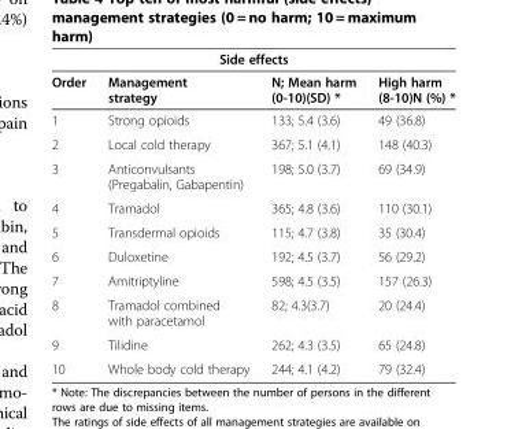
<table><thead><tr><td colspan="4">Side effects</td></tr><tr><td>Order</td><td>Management strategy</td><td>N; Mean harm (0-10)(SD) *</td><td>High harm (8-10)N (%) *</td></tr></thead><tbody><tr><td>1</td><td>Strong opioids</td><td>133; 5.4 (3.6)</td><td>49 (36.8)</td></tr><tr><td>2</td><td>Local cold therapy</td><td>367; 5.1 (4.1)</td><td>148 (40.3)</td></tr><tr><td>3</td><td>Anticonvulsants (Pregabalin, Gabapentin)</td><td>198; 5.0 (3.7)</td><td>69 (34.9)</td></tr><tr><td>4</td><td>Tramadol</td><td>365; 4.8 (3.6)</td><td>110 (30.1)</td></tr><tr><td>5</td><td>Transdermal opioids</td><td>115; 4.7 (3.8)</td><td>35 (30.4)</td></tr><tr><td>6</td><td>Duloxetine</td><td>192; 4.5 (3.7)</td><td>56 (29.2)</td></tr><tr><td>7</td><td>Amitriptyline</td><td>598; 4.5 (3.5)</td><td>157 (26.3)</td></tr><tr><td>8</td><td>Tramadol combined with paracetamol</td><td>82; 4.3(3.7)</td><td>20 (24.4)</td></tr><tr><td>9</td><td>Tilidine</td><td>262; 4.3 (3.5)</td><td>65 (24.8)</td></tr><tr><td>10</td><td>Whole body cold therapy</td><td>244; 4.1 (4.2)</td><td>79 (32.4)</td></tr></tbody></table>